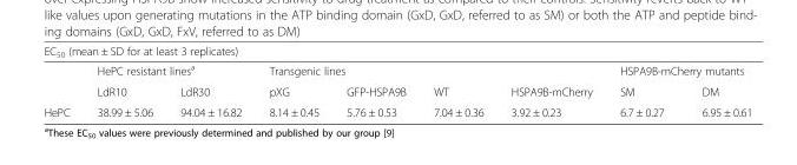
<table><thead><tr><td colspan="9">EC<sub>50</sub> (mean ± SD for at least 3 replicates)</td></tr><tr><td rowspan="2"></td><td colspan="2">HePC resistant lines<sup>a</sup></td><td colspan="4">Transgenic lines</td><td colspan="2">HSPA9B-mCherry mutants</td></tr><tr><td>LdR10</td><td>LdR30</td><td>pXG</td><td>GFP-HSPA9B</td><td>WT</td><td>HSPA9B-mCherry</td><td>SM</td><td>DM</td></tr></thead><tbody><tr><td>HePC</td><td>38.99 ± 5.06</td><td>94.04 ± 16.82</td><td>8.14 ± 0.45</td><td>5.76 ± 0.53</td><td>7.04 ± 0.36</td><td>3.92 ± 0.23</td><td>6.7 ± 0.27</td><td>6.95 ± 0.61</td></tr></tbody></table>